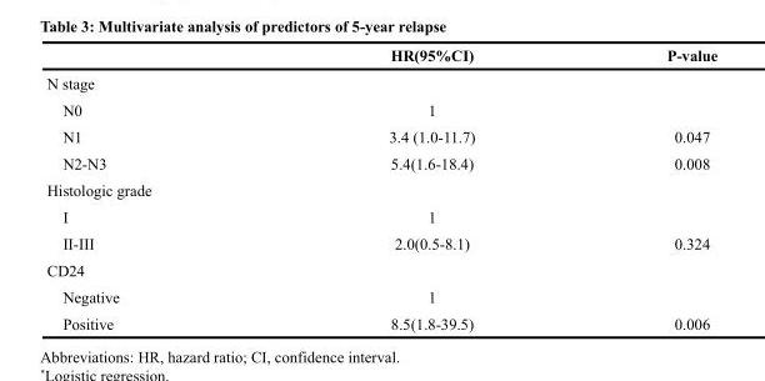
<table><thead><tr><td></td><td>HR(95%CI)</td><td>P-value</td></tr></thead><tbody><tr><td colspan="3">N stage</td></tr><tr><td>N0</td><td>1</td><td></td></tr><tr><td>N1</td><td>3.4 (1.0-11.7)</td><td>0.047</td></tr><tr><td>N2-N3</td><td>5.4(1.6-18.4)</td><td>0.008</td></tr><tr><td colspan="3">Histologic grade</td></tr><tr><td>I</td><td>1</td><td></td></tr><tr><td>II-III</td><td>2.0(0.5-8.1)</td><td>0.324</td></tr><tr><td colspan="3">CD24</td></tr><tr><td>Negative</td><td>1</td><td></td></tr><tr><td>Positive</td><td>8.5(1.8-39.5)</td><td>0.006</td></tr></tbody></table>